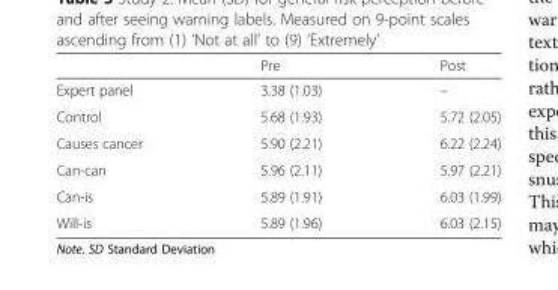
<table><thead><tr><td></td><td>Pre</td><td>Post</td></tr></thead><tbody><tr><td>Expert panel</td><td>3.38 (1.03)</td><td>–</td></tr><tr><td>Control</td><td>5.68 (1.93)</td><td>5.72 (2.05)</td></tr><tr><td>Causes cancer</td><td>5.90 (2.21)</td><td>6.22 (2.24)</td></tr><tr><td>Can-can</td><td>5.96 (2.11)</td><td>5.97 (2.21)</td></tr><tr><td>Can-is</td><td>5.89 (1.91)</td><td>6.03 (1.99)</td></tr><tr><td>Will-is</td><td>5.89 (1.96)</td><td>6.03 (2.15)</td></tr></tbody></table>